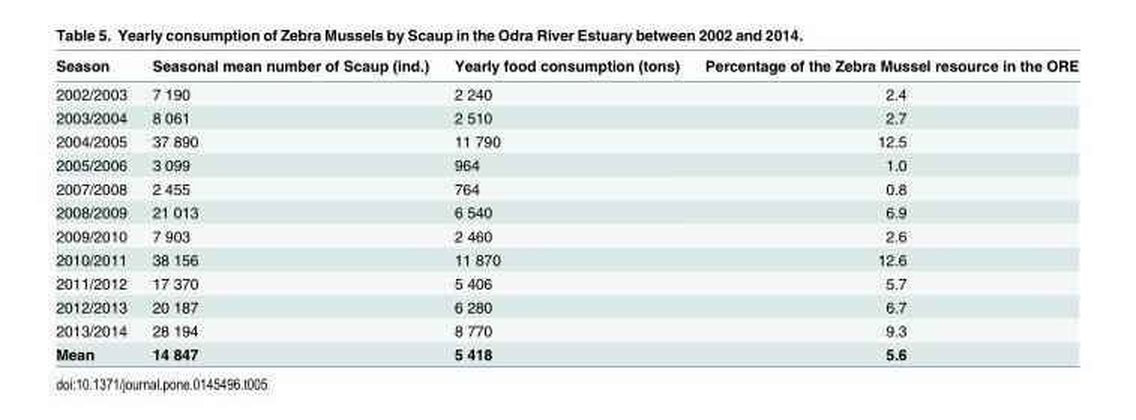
<table><thead><tr><td>Season</td><td>Seasonal mean number of Scaup (ind.)</td><td>Yearly food consumption (tons)</td><td>Percentage of the Zebra Mussel resource in the ORE</td></tr></thead><tbody><tr><td>2002/2003</td><td>7 190</td><td>2 240</td><td>2.4</td></tr><tr><td>2003/2004</td><td>8 061</td><td>2 510</td><td>2.7</td></tr><tr><td>2004/2005</td><td>37 890</td><td>11 790</td><td>12.5</td></tr><tr><td>2005/2006</td><td>3 099</td><td>964</td><td>1.0</td></tr><tr><td>2007/2008</td><td>2 455</td><td>764</td><td>0.8</td></tr><tr><td>2008/2009</td><td>21 013</td><td>6 540</td><td>6.9</td></tr><tr><td>2009/2010</td><td>7 903</td><td>2 460</td><td>2.6</td></tr><tr><td>2010/2011</td><td>38 156</td><td>11 870</td><td>12.6</td></tr><tr><td>2011/2012</td><td>17 370</td><td>5 406</td><td>5.7</td></tr><tr><td>2012/2013</td><td>20 187</td><td>6 280</td><td>6.7</td></tr><tr><td>2013/2014</td><td>28 194</td><td>8 770</td><td>9.3</td></tr><tr><td>Mean</td><td>14 847</td><td>5 418</td><td>5.6</td></tr></tbody></table>